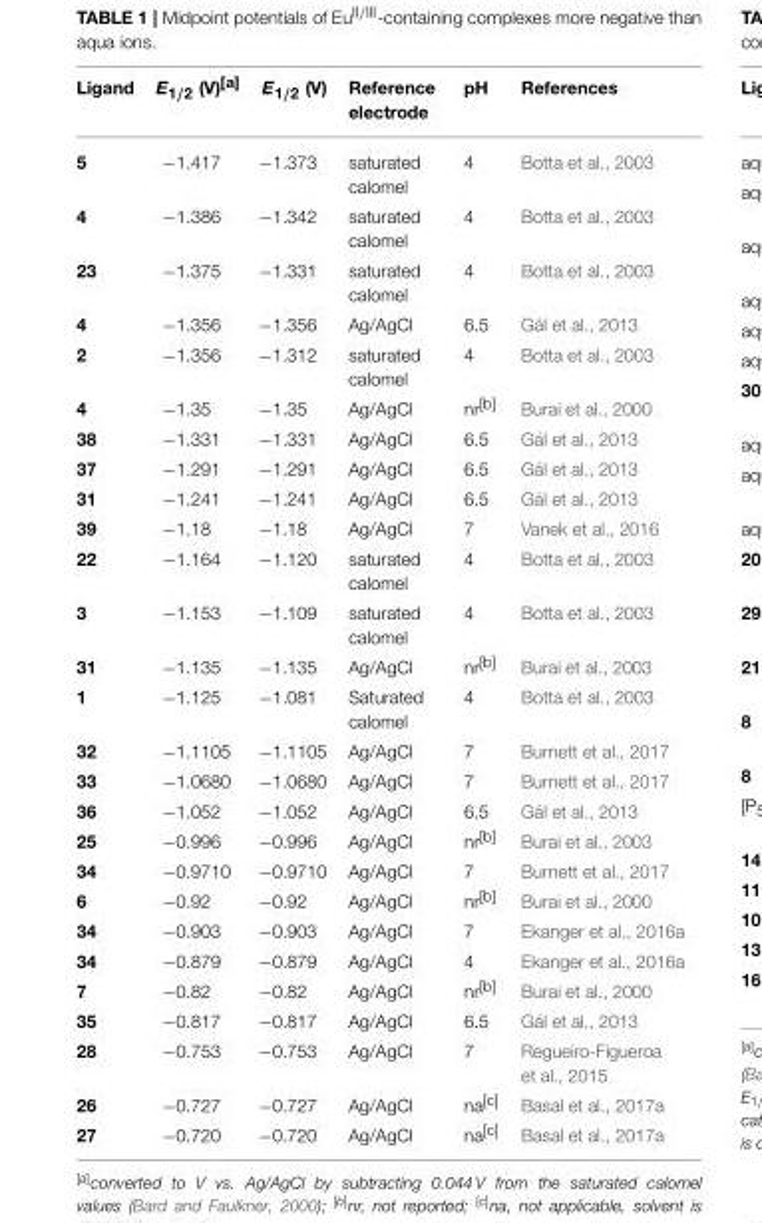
<table><thead><tr><td>Ligand</td><td>E<sub>1/2</sub> (V)<sup>[a]</sup></td><td>E<sub>1/2</sub> (V)</td><td>Reference electrode</td><td>pH</td><td>References</td></tr></thead><tbody><tr><td>5</td><td>−1.417</td><td>−1.373</td><td>saturated calomel</td><td>4</td><td>Botta et al., 2003</td></tr><tr><td>4</td><td>−1.386</td><td>−1.342</td><td>saturated calomel</td><td>4</td><td>Botta et al., 2003</td></tr><tr><td>23</td><td>−1.375</td><td>−1.331</td><td>saturated calomel</td><td>4</td><td>Botta et al., 2003</td></tr><tr><td>4</td><td>−1.356</td><td>−1.356</td><td>Ag/AgCl</td><td>6.5</td><td>Gál et al., 2013</td></tr><tr><td>2</td><td>−1.356</td><td>−1.312</td><td>saturated calomel</td><td>4</td><td>Botta et al., 2003</td></tr><tr><td>4</td><td>−1.35</td><td>−1.35</td><td>Ag/AgCl</td><td>nr<sup>[b]</sup></td><td>Burai et al., 2000</td></tr><tr><td>38</td><td>−1.331</td><td>−1.331</td><td>Ag/AgCl</td><td>6.5</td><td>Gál et al., 2013</td></tr><tr><td>37</td><td>−1.291</td><td>−1.291</td><td>Ag/AgCl</td><td>6.5</td><td>Gál et al., 2013</td></tr><tr><td>31</td><td>−1.241</td><td>−1.241</td><td>Ag/AgCl</td><td>6.5</td><td>Gál et al., 2013</td></tr><tr><td>39</td><td>−1.18</td><td>−1.18</td><td>Ag/AgCl</td><td>7</td><td>Vanek et al., 2016</td></tr><tr><td>22</td><td>−1.164</td><td>−1.120</td><td>saturated calomel</td><td>4</td><td>Botta et al., 2003</td></tr><tr><td>3</td><td>−1.153</td><td>−1.109</td><td>saturated calomel</td><td>4</td><td>Botta et al., 2003</td></tr><tr><td>31</td><td>−1.135</td><td>−1.135</td><td>Ag/AgCl</td><td>nr<sup>[b]</sup></td><td>Burai et al., 2003</td></tr><tr><td>1</td><td>−1.125</td><td>−1.081</td><td>Saturated calomel</td><td>4</td><td>Botta et al., 2003</td></tr><tr><td>32</td><td>−1.1105</td><td>−1.1105</td><td>Ag/AgCl</td><td>7</td><td>Burnett et al., 2017</td></tr><tr><td>33</td><td>−1.0680</td><td>−1.0680</td><td>Ag/AgCl</td><td>7</td><td>Burnett et al., 2017</td></tr><tr><td>36</td><td>−1.052</td><td>−1.052</td><td>Ag/AgCl</td><td>6.5</td><td>Gál et al., 2013</td></tr><tr><td>25</td><td>−0.996</td><td>−0.996</td><td>Ag/AgCl</td><td>nr<sup>[b]</sup></td><td>Burai et al., 2003</td></tr><tr><td>34</td><td>−0.9710</td><td>−0.9710</td><td>Ag/AgCl</td><td>7</td><td>Burnett et al., 2017</td></tr><tr><td>6</td><td>−0.92</td><td>−0.92</td><td>Ag/AgCl</td><td>nr<sup>[b]</sup></td><td>Burai et al., 2000</td></tr><tr><td>34</td><td>−0.903</td><td>−0.903</td><td>Ag/AgCl</td><td>7</td><td>Ekanger et al., 2016a</td></tr><tr><td>34</td><td>−0.879</td><td>−0.879</td><td>Ag/AgCl</td><td>4</td><td>Ekanger et al., 2016a</td></tr><tr><td>7</td><td>−0.82</td><td>−0.82</td><td>Ag/AgCl</td><td>nr<sup>[b]</sup></td><td>Burai et al., 2000</td></tr><tr><td>35</td><td>−0.817</td><td>−0.817</td><td>Ag/AgCl</td><td>6.5</td><td>Gál et al., 2013</td></tr><tr><td>28</td><td>−0.753</td><td>−0.753</td><td>Ag/AgCl</td><td>7</td><td>Regueiro-Figueroa et al., 2015</td></tr><tr><td>26</td><td>−0.727</td><td>−0.727</td><td>Ag/AgCl</td><td>na<sup>[c]</sup></td><td>Basal et al., 2017a</td></tr><tr><td>27</td><td>−0.720</td><td>−0.720</td><td>Ag/AgCl</td><td>na<sup>[c]</sup></td><td>Basal et al., 2017a</td></tr></tbody></table>